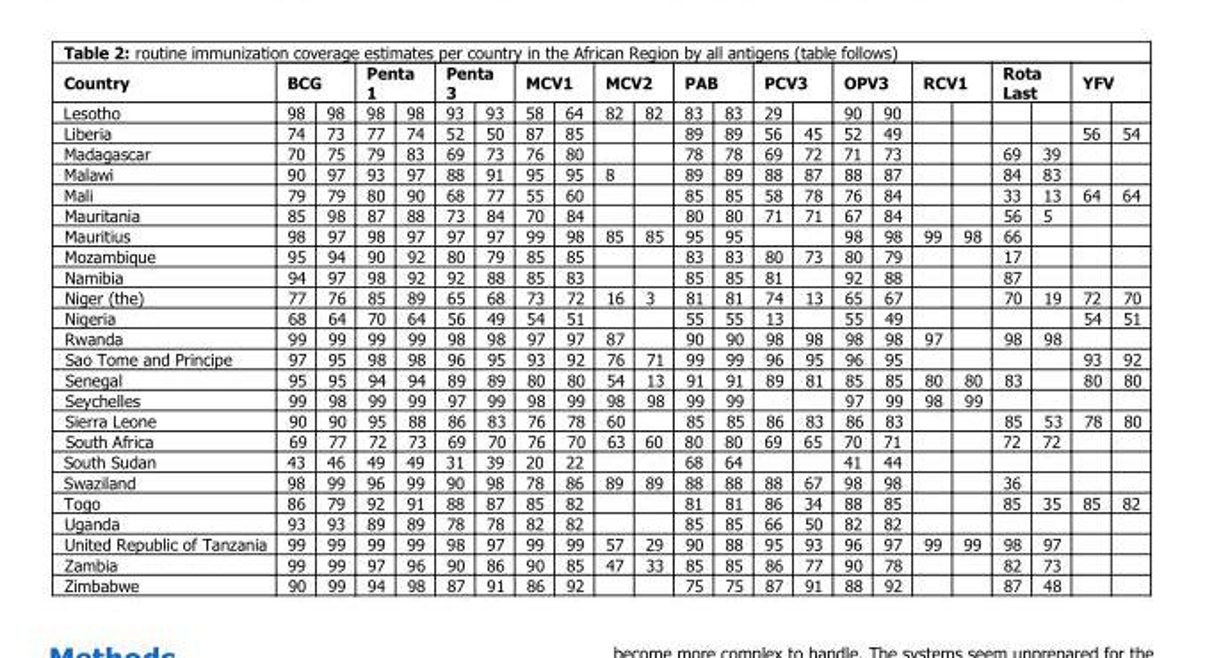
<table><thead><tr><td rowspan="2">Country Lesotho</td><td colspan="2">BCG</td><td colspan="2">Penta 1</td><td colspan="2">Penta 3</td><td colspan="2">MCV1</td><td colspan="2">MCV2</td><td colspan="2">PAB</td><td colspan="2">PCV3</td><td colspan="2">OPV3</td><td colspan="2">RCV1</td><td colspan="2">Rota Last</td><td colspan="2">YFV</td></tr><tr><td>98</td><td>98</td><td>98</td><td>98</td><td>93</td><td>93</td><td>58</td><td>64</td><td>82</td><td>82</td><td>83</td><td>83</td><td>29</td><td></td><td>90</td><td>90</td><td></td><td></td><td></td><td></td><td></td><td></td></tr></thead><tbody><tr><td>Liberia</td><td>74</td><td>73</td><td>77</td><td>74</td><td>52</td><td>50</td><td>87</td><td>85</td><td></td><td></td><td>89</td><td>89</td><td>56</td><td>45</td><td>52</td><td>49</td><td></td><td></td><td></td><td></td><td>56</td><td>54</td></tr><tr><td>Madagascar</td><td>70</td><td>75</td><td>79</td><td>83</td><td>69</td><td>73</td><td>76</td><td>80</td><td></td><td></td><td>78</td><td>78</td><td>69</td><td>72</td><td>71</td><td>73</td><td></td><td></td><td>69</td><td>39</td><td></td><td></td></tr><tr><td>Malawi</td><td>90</td><td>97</td><td>93</td><td>97</td><td>88</td><td>91</td><td>95</td><td>95</td><td>8</td><td></td><td>89</td><td>89</td><td>88</td><td>87</td><td>88</td><td>87</td><td></td><td></td><td>84</td><td>83</td><td></td><td></td></tr><tr><td>Mali</td><td>79</td><td>79</td><td>80</td><td>90</td><td>68</td><td>77</td><td>55</td><td>60</td><td></td><td></td><td>85</td><td>85</td><td>58</td><td>78</td><td>76</td><td>84</td><td></td><td></td><td>33</td><td>13</td><td>64</td><td>64</td></tr><tr><td>Mauritania</td><td>85</td><td>98</td><td>87</td><td>88</td><td>73</td><td>84</td><td>70</td><td>84</td><td></td><td></td><td>80</td><td>80</td><td>71</td><td>71</td><td>67</td><td>84</td><td></td><td></td><td>56</td><td>5</td><td></td><td></td></tr><tr><td>Mauritius</td><td>98</td><td>97</td><td>98</td><td>97</td><td>97</td><td>97</td><td>99</td><td>98</td><td>85</td><td>85</td><td>95</td><td>95</td><td></td><td></td><td>98</td><td>98</td><td>99</td><td>98</td><td>66</td><td></td><td></td><td></td></tr><tr><td>Mozambique</td><td>95</td><td>94</td><td>90</td><td>92</td><td>80</td><td>79</td><td>85</td><td>85</td><td></td><td></td><td>83</td><td>83</td><td>80</td><td>73</td><td>80</td><td>79</td><td></td><td></td><td>17</td><td></td><td></td><td></td></tr><tr><td>Namibia</td><td>94</td><td>97</td><td>98</td><td>92</td><td>92</td><td>88</td><td>85</td><td>83</td><td></td><td></td><td>85</td><td>85</td><td>81</td><td></td><td>92</td><td>88</td><td></td><td></td><td>87</td><td></td><td></td><td></td></tr><tr><td>Niger (the)</td><td>77</td><td>76</td><td>85</td><td>89</td><td>65</td><td>68</td><td>73</td><td>72</td><td>16</td><td>3</td><td>81</td><td>81</td><td>74</td><td>13</td><td>65</td><td>67</td><td></td><td></td><td>70</td><td>19</td><td>72</td><td>70</td></tr><tr><td>Nigeria</td><td>68</td><td>64</td><td>70</td><td>64</td><td>56</td><td>49</td><td>54</td><td>51</td><td></td><td></td><td>55</td><td>55</td><td>13</td><td></td><td>55</td><td>49</td><td></td><td></td><td></td><td></td><td>54</td><td>51</td></tr><tr><td>Rwanda</td><td>99</td><td>99</td><td>99</td><td>99</td><td>98</td><td>98</td><td>97</td><td>97</td><td>87</td><td></td><td>90</td><td>90</td><td>98</td><td>98</td><td>98</td><td>98</td><td>97</td><td></td><td>98</td><td>98</td><td></td><td></td></tr><tr><td>Sao Tome and Principe</td><td>97</td><td>95</td><td>98</td><td>98</td><td>96</td><td>95</td><td>93</td><td>92</td><td>76</td><td>71</td><td>99</td><td>99</td><td>96</td><td>95</td><td>96</td><td>95</td><td></td><td></td><td></td><td></td><td>93</td><td>92</td></tr><tr><td>Senegal</td><td>95</td><td>95</td><td>94</td><td>94</td><td>89</td><td>89</td><td>80</td><td>80</td><td>54</td><td>13</td><td>91</td><td>91</td><td>89</td><td>81</td><td>85</td><td>85</td><td>80</td><td>80</td><td>83</td><td></td><td>80</td><td>80</td></tr><tr><td>Seychelles</td><td>99</td><td>98</td><td>99</td><td>99</td><td>97</td><td>99</td><td>98</td><td>99</td><td>98</td><td>98</td><td>99</td><td>99</td><td></td><td></td><td>97</td><td>99</td><td>98</td><td>99</td><td></td><td></td><td></td><td></td></tr><tr><td>Sierra Leone</td><td>90</td><td>90</td><td>95</td><td>88</td><td>86</td><td>83</td><td>76</td><td>78</td><td>60</td><td></td><td>85</td><td>85</td><td>86</td><td>83</td><td>86</td><td>83</td><td></td><td></td><td>85</td><td>53</td><td>78</td><td>80</td></tr><tr><td>South Africa</td><td>69</td><td>77</td><td>72</td><td>73</td><td>69</td><td>70</td><td>76</td><td>70</td><td>63</td><td>60</td><td>80</td><td>80</td><td>69</td><td>65</td><td>70</td><td>71</td><td></td><td></td><td>72</td><td>72</td><td></td><td></td></tr><tr><td>South Sudan</td><td>43</td><td>46</td><td>49</td><td>49</td><td>31</td><td>39</td><td>20</td><td>22</td><td></td><td></td><td>68</td><td>64</td><td></td><td></td><td>41</td><td>44</td><td></td><td></td><td></td><td></td><td></td><td></td></tr><tr><td>Swaziland</td><td>98</td><td>99</td><td>96</td><td>99</td><td>90</td><td>98</td><td>78</td><td>86</td><td>89</td><td>89</td><td>88</td><td>88</td><td>88</td><td>67</td><td>98</td><td>98</td><td></td><td></td><td>36</td><td></td><td></td><td></td></tr><tr><td>Togo</td><td>86</td><td>79</td><td>92</td><td>91</td><td>88</td><td>87</td><td>85</td><td>82</td><td></td><td></td><td>81</td><td>81</td><td>86</td><td>34</td><td>88</td><td>85</td><td></td><td></td><td>85</td><td>35</td><td>85</td><td>82</td></tr><tr><td>Uganda</td><td>93</td><td>93</td><td>89</td><td>89</td><td>78</td><td>78</td><td>82</td><td>82</td><td></td><td></td><td>85</td><td>85</td><td>66</td><td>50</td><td>82</td><td>82</td><td></td><td></td><td></td><td></td><td></td><td></td></tr><tr><td>United Republic of Tanzania</td><td>99</td><td>99</td><td>99</td><td>99</td><td>98</td><td>97</td><td>99</td><td>99</td><td>57</td><td>29</td><td>90</td><td>88</td><td>95</td><td>93</td><td>96</td><td>97</td><td>99</td><td>99</td><td>98</td><td>97</td><td></td><td></td></tr><tr><td>Zambia</td><td>99</td><td>99</td><td>97</td><td>96</td><td>90</td><td>86</td><td>90</td><td>85</td><td>47</td><td>33</td><td>85</td><td>85</td><td>86</td><td>77</td><td>90</td><td>78</td><td></td><td></td><td>82</td><td>73</td><td></td><td></td></tr><tr><td>Zimbabwe</td><td>90</td><td>99</td><td>94</td><td>98</td><td>87</td><td>91</td><td>86</td><td>92</td><td></td><td></td><td>75</td><td>75</td><td>87</td><td>91</td><td>88</td><td>92</td><td></td><td></td><td>87</td><td>48</td><td></td><td></td></tr></tbody></table>